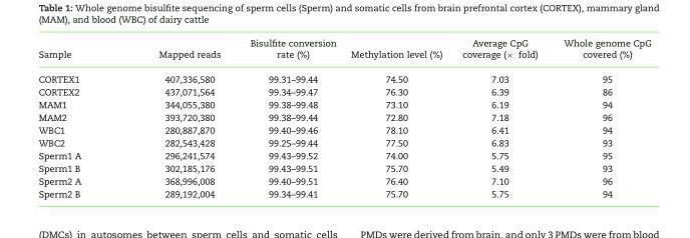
<table><thead><tr><td>Sample</td><td>Mapped reads</td><td>Bisulfite conversion rate (%)</td><td>Methylation level (%)</td><td>Average CpG coverage (× fold)</td><td>Whole genome CpG covered (%)</td></tr></thead><tbody><tr><td>CORTEX1</td><td>407,336,580</td><td>99.31–99.44</td><td>74.50</td><td>7.03</td><td>95</td></tr><tr><td>CORTEX2</td><td>437,071,564</td><td>99.34–99.47</td><td>76.30</td><td>6.39</td><td>86</td></tr><tr><td>MAM1</td><td>344,055,380</td><td>99.38–99.48</td><td>73.10</td><td>6.19</td><td>94</td></tr><tr><td>MAM2</td><td>393,720,380</td><td>99.38–99.44</td><td>72.80</td><td>7.18</td><td>96</td></tr><tr><td>WBC1</td><td>280,887,870</td><td>99.40–99.46</td><td>78.10</td><td>6.41</td><td>94</td></tr><tr><td>WBC2</td><td>282,543,428</td><td>99.25–99.44</td><td>77.50</td><td>6.83</td><td>93</td></tr><tr><td>Sperm1 A</td><td>296,241,574</td><td>99.43–99.52</td><td>74.00</td><td>5.75</td><td>95</td></tr><tr><td>Sperm1 B</td><td>302,185,176</td><td>99.43–99.51</td><td>75.70</td><td>5.49</td><td>93</td></tr><tr><td>Sperm2 A</td><td>368,996,008</td><td>99.40–99.51</td><td>76.40</td><td>7.10</td><td>96</td></tr><tr><td>Sperm2 B</td><td>289,192,004</td><td>99.34–99.41</td><td>75.70</td><td>5.75</td><td>94</td></tr></tbody></table>